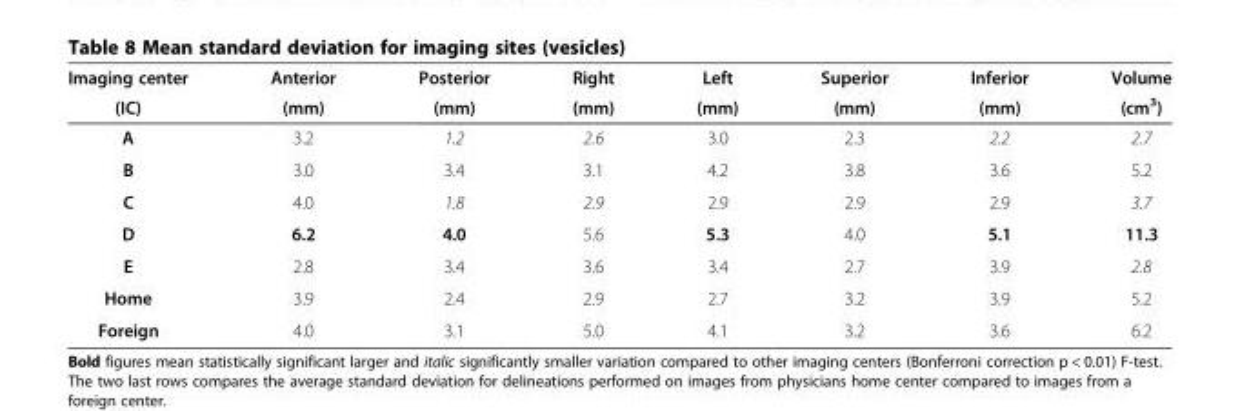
<table><thead><tr><td rowspan="2">Imaging center (IC)</td><td rowspan="2">Anterior (mm)</td><td rowspan="2">Posterior (mm)</td><td rowspan="2">Right (mm)</td><td rowspan="2">Left (mm)</td><td rowspan="2">Superior (mm)</td><td rowspan="2">Inferior (mm)</td><td rowspan="2">Volume (cm<sup>3</sup>)</td></tr><tr></tr></thead><tbody><tr><td>A</td><td>3.2</td><td>1.2</td><td>2.6</td><td>3.0</td><td>2.3</td><td>2.2</td><td>2.7</td></tr><tr><td>B</td><td>3.0</td><td>3.4</td><td>3.1</td><td>4.2</td><td>3.8</td><td>3.6</td><td>5.2</td></tr><tr><td>C</td><td>4.0</td><td>1.8</td><td>2.9</td><td>2.9</td><td>2.9</td><td>2.9</td><td>3.7</td></tr><tr><td>D</td><td>6.2</td><td>4.0</td><td>5.6</td><td>5.3</td><td>4.0</td><td>5.1</td><td>11.3</td></tr><tr><td>E</td><td>2.8</td><td>3.4</td><td>3.6</td><td>3.4</td><td>2.7</td><td>3.9</td><td>2.8</td></tr><tr><td>Home</td><td>3.9</td><td>2.4</td><td>2.9</td><td>2.7</td><td>3.2</td><td>3.9</td><td>5.2</td></tr><tr><td>Foreign</td><td>4.0</td><td>3.1</td><td>5.0</td><td>4.1</td><td>3.2</td><td>3.6</td><td>6.2</td></tr></tbody></table>